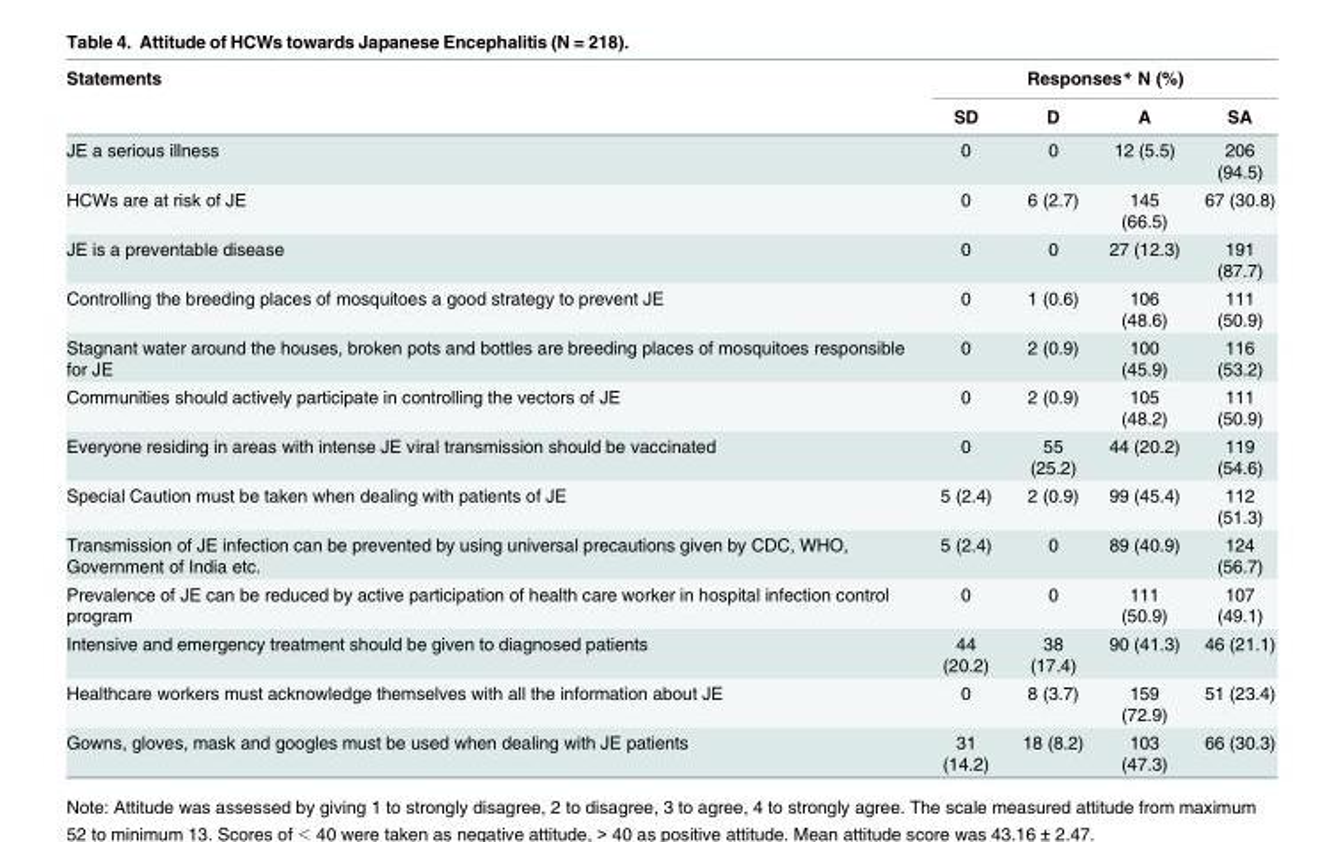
<table><thead><tr><td rowspan="2">Statements</td><td colspan="4">Responses* N (%)</td></tr><tr><td>SD</td><td>D</td><td>A</td><td>SA</td></tr></thead><tbody><tr><td>JE a serious illness</td><td>0</td><td>0</td><td>12 (5.5)</td><td>206 (94.5)</td></tr><tr><td>HCWs are at risk of JE</td><td>0</td><td>6 (2.7)</td><td>145 (66.5)</td><td>67 (30.8)</td></tr><tr><td>JE is a preventable disease</td><td>0</td><td>0</td><td>27 (12.3)</td><td>191 (87.7)</td></tr><tr><td>Controlling the breeding places of mosquitoes a good strategy to prevent JE</td><td>0</td><td>1 (0.6)</td><td>106 (48.6)</td><td>111 (50.9)</td></tr><tr><td>Stagnant water around the houses, broken pots and bottles are breeding places of mosquitoes responsible for JE</td><td>0</td><td>2 (0.9)</td><td>100 (45.9)</td><td>116 (53.2)</td></tr><tr><td>Communities should actively participate in controlling the vectors of JE</td><td>0</td><td>2 (0.9)</td><td>105 (48.2)</td><td>111 (50.9)</td></tr><tr><td>Everyone residing in areas with intense JE viral transmission should be vaccinated</td><td>0</td><td>55 (25.2)</td><td>44 (20.2)</td><td>119 (54.6)</td></tr><tr><td>Special Caution must be taken when dealing with patients of JE</td><td>5 (2.4)</td><td>2 (0.9)</td><td>99 (45.4)</td><td>112 (51.3)</td></tr><tr><td>Transmission of JE infection can be prevented by using universal precautions given by CDC, WHO, Government of India etc.</td><td>5 (2.4)</td><td>0</td><td>89 (40.9)</td><td>124 (56.7)</td></tr><tr><td>Prevalence of JE can be reduced by active participation of health care worker in hospital infection control program</td><td>0</td><td>0</td><td>111 (50.9)</td><td>107 (49.1)</td></tr><tr><td>Intensive and emergency treatment should be given to diagnosed patients</td><td>44 (20.2)</td><td>38 (17.4)</td><td>90 (41.3)</td><td>46 (21.1)</td></tr><tr><td>Healthcare workers must acknowledge themselves with all the information about JE</td><td>0</td><td>8 (3.7)</td><td>159 (72.9)</td><td>51 (23.4)</td></tr><tr><td>Gowns, gloves, mask and googles must be used when dealing with JE patients</td><td>31 (14.2)</td><td>18 (8.2)</td><td>103 (47.3)</td><td>66 (30.3)</td></tr></tbody></table>